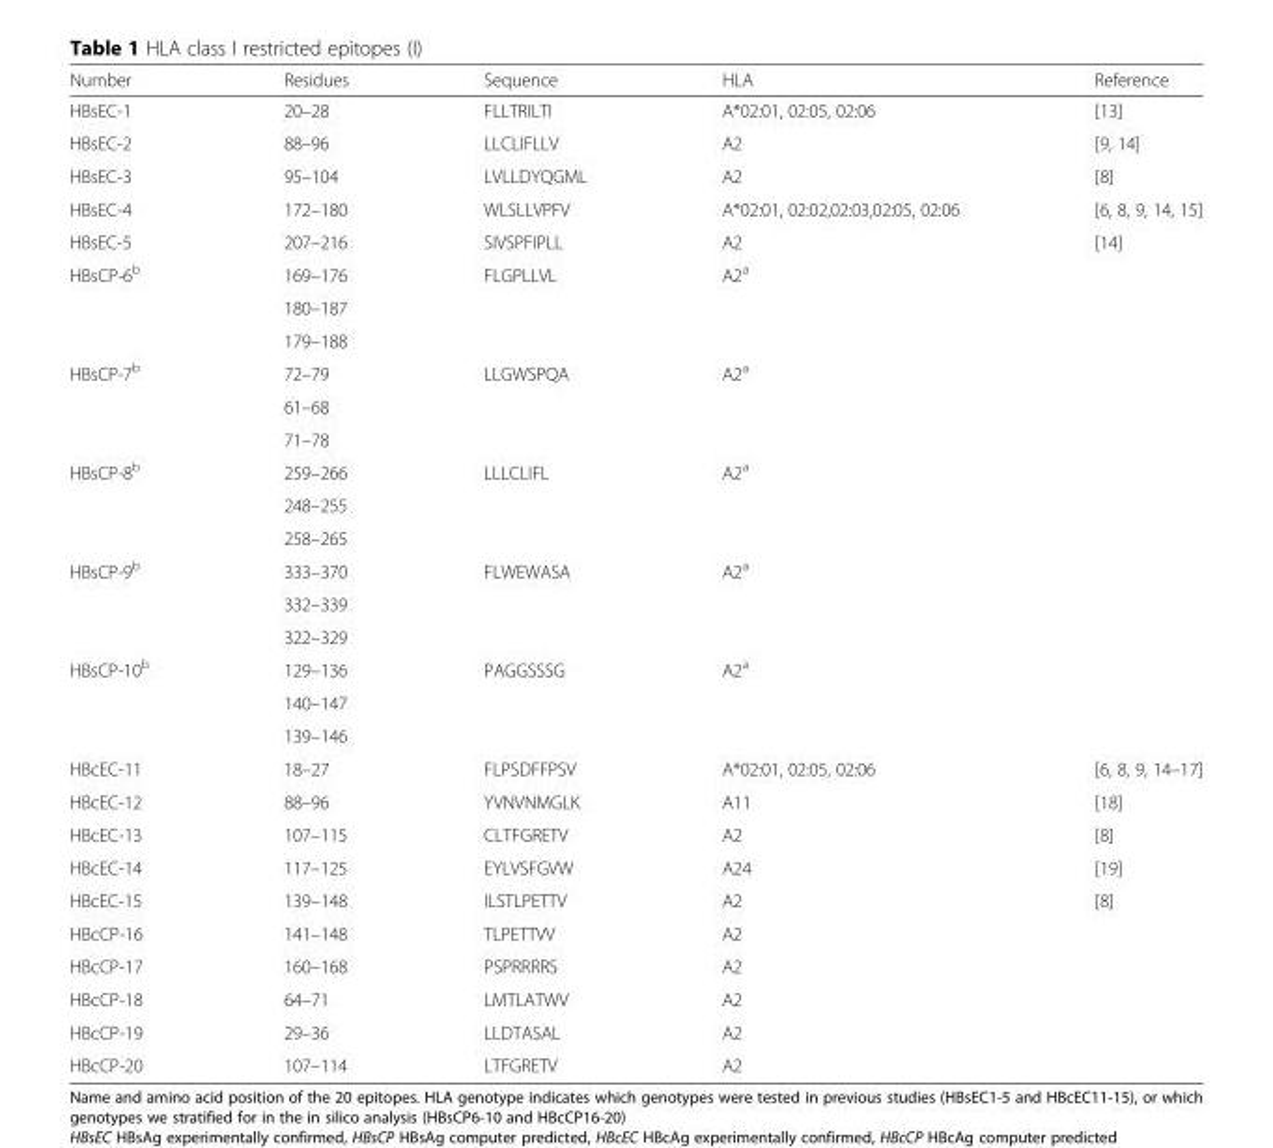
<table><thead><tr><td>Number</td><td>Residues</td><td>Sequence</td><td>HLA</td><td>Reference</td></tr></thead><tbody><tr><td>HBsEC-1</td><td>20–28</td><td>FLLTRILTI</td><td>A*02:01, 02:05, 02:06</td><td>[13]</td></tr><tr><td>HBsEC-2</td><td>88–96</td><td>LLCLIFLLV</td><td>A2</td><td>[9, 14]</td></tr><tr><td>HBsEC-3</td><td>95–104</td><td>LVLLDYQGML</td><td>A2</td><td>[8]</td></tr><tr><td>HBsEC-4</td><td>172–180</td><td>WLSLLVPFV</td><td>A*02:01, 02:02,02:03,02:05, 02:06</td><td>[6, 8, 9, 14, 15]</td></tr><tr><td>HBsEC-5</td><td>207–216</td><td>SIVSPFIPLL</td><td>A2</td><td>[14]</td></tr><tr><td rowspan="3">HBsCP-6<sup>b</sup></td><td>169–176</td><td>FLGPLLVL</td><td>A2<sup>a</sup></td><td></td></tr><tr><td>180–187</td><td></td><td></td><td></td></tr><tr><td>179–188</td><td></td><td></td><td></td></tr><tr><td rowspan="3">HBsCP-7<sup>b</sup></td><td>72–79</td><td>LLGWSPQA</td><td>A2<sup>a</sup></td><td></td></tr><tr><td>61–68</td><td></td><td></td><td></td></tr><tr><td>71–78</td><td></td><td></td><td></td></tr><tr><td rowspan="3">HBsCP-8<sup>b</sup></td><td>259–266</td><td>LLLCLIFL</td><td>A2<sup>a</sup></td><td></td></tr><tr><td>248–255</td><td></td><td></td><td></td></tr><tr><td>258–265</td><td></td><td></td><td></td></tr><tr><td rowspan="3">HBsCP-9<sup>b</sup></td><td>333–370</td><td>FLWEWASA</td><td>A2<sup>a</sup></td><td></td></tr><tr><td>332–339</td><td></td><td></td><td></td></tr><tr><td>322–329</td><td></td><td></td><td></td></tr><tr><td rowspan="3">HBsCP-10<sup>b</sup></td><td>129–136</td><td>PAGGSSSG</td><td>A2<sup>a</sup></td><td></td></tr><tr><td>140–147</td><td></td><td></td><td></td></tr><tr><td>139–146</td><td></td><td></td><td></td></tr><tr><td>HBcEC-11</td><td>18–27</td><td>FLPSDFFPSV</td><td>A*02:01, 02:05, 02:06</td><td>[6, 8, 9, 14–17]</td></tr><tr><td>HBcEC-12</td><td>88–96</td><td>YVNVNMGLK</td><td>A11</td><td>[18]</td></tr><tr><td>HBcEC-13</td><td>107–115</td><td>CLTFGRETV</td><td>A2</td><td>[8]</td></tr><tr><td>HBcEC-14</td><td>117–125</td><td>EYLVSFGVW</td><td>A24</td><td>[19]</td></tr><tr><td>HBcEC-15</td><td>139–148</td><td>ILSTLPETTV</td><td>A2</td><td>[8]</td></tr><tr><td>HBcCP-16</td><td>141–148</td><td>TLPETTVV</td><td>A2</td><td></td></tr><tr><td>HBcCP-17</td><td>160–168</td><td>PSPRRRRS</td><td>A2</td><td></td></tr><tr><td>HBcCP-18</td><td>64–71</td><td>LMTLATWV</td><td>A2</td><td></td></tr><tr><td>HBcCP-19</td><td>29–36</td><td>LLDTASAL</td><td>A2</td><td></td></tr><tr><td>HBcCP-20</td><td>107–114</td><td>LTFGRETV</td><td>A2</td><td></td></tr></tbody></table>